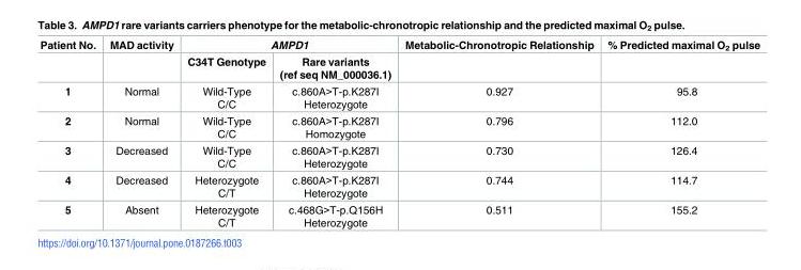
<table><thead><tr><td rowspan="2">Patient No.</td><td rowspan="2">MAD activity</td><td colspan="2">AMPD1</td><td rowspan="2">Metabolic-Chronotropic Relationship</td><td rowspan="2">% Predicted maximal O<sub>2</sub> pulse</td></tr><tr><td>C34T Genotype</td><td>Rare variants (ref seq NM_000036.1)</td></tr></thead><tbody><tr><td>1</td><td>Normal</td><td>Wild-Type C/C</td><td>c.860A&gt;T-p.K287I Heterozygote</td><td>0.927</td><td>95.8</td></tr><tr><td>2</td><td>Normal</td><td>Wild-Type C/C</td><td>c.860A&gt;T-p.K287I Homozygote</td><td>0.796</td><td>112.0</td></tr><tr><td>3</td><td>Decreased</td><td>Wild-Type C/C</td><td>c.860A&gt;T-p.K287I Heterozygote</td><td>0.730</td><td>126.4</td></tr><tr><td>4</td><td>Decreased</td><td>Heterozygote C/T</td><td>c.860A&gt;T-p.K287I Heterozygote</td><td>0.744</td><td>114.7</td></tr><tr><td>5</td><td>Absent</td><td>Heterozygote C/T</td><td>c.468G&gt;T-p.Q156H Heterozygote</td><td>0.511</td><td>155.2</td></tr></tbody></table>